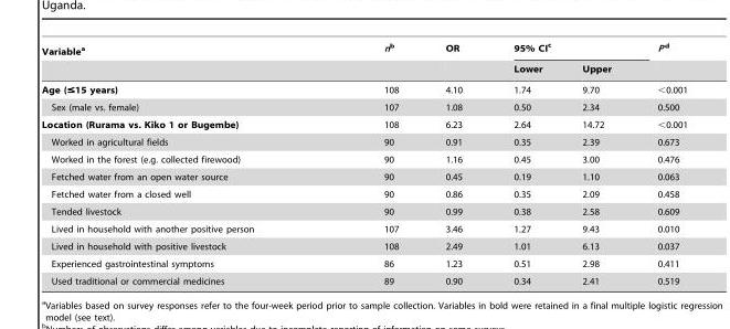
<table><thead><tr><td rowspan="2">Variable<sup>a</sup></td><td rowspan="2">nb</td><td rowspan="2">OR</td><td colspan="2">95% CI<sup>c</sup></td><td rowspan="2">P d</td></tr><tr><td>Lower</td><td>Upper</td></tr></thead><tbody><tr><td>Age (≤15 years)</td><td>108</td><td>4.10</td><td>1.74</td><td>9.70</td><td>&lt;0.001</td></tr><tr><td>Sex (male vs. female)</td><td>107</td><td>1.08</td><td>0.50</td><td>2.34</td><td>0.500</td></tr><tr><td>Location (Rurama vs. Kiko 1 or Bugembe)</td><td>108</td><td>6.23</td><td>2.64</td><td>14.72</td><td>&lt;0.001</td></tr><tr><td>Worked in agricultural fields</td><td>90</td><td>0.91</td><td>0.35</td><td>2.39</td><td>0.673</td></tr><tr><td>Worked in the forest (e.g. collected firewood)</td><td>90</td><td>1.16</td><td>0.45</td><td>3.00</td><td>0.476</td></tr><tr><td>Fetched water from an open water source</td><td>90</td><td>0.45</td><td>0.19</td><td>1.10</td><td>0.063</td></tr><tr><td>Fetched water from a closed well</td><td>90</td><td>0.86</td><td>0.35</td><td>2.09</td><td>0.458</td></tr><tr><td>Tended livestock</td><td>90</td><td>0.99</td><td>0.38</td><td>2.58</td><td>0.609</td></tr><tr><td>Lived in household with another positive person</td><td>107</td><td>3.46</td><td>1.27</td><td>9.43</td><td>0.010</td></tr><tr><td>Lived in household with positive livestock</td><td>108</td><td>2.49</td><td>1.01</td><td>6.13</td><td>0.037</td></tr><tr><td>Experienced gastrointestinal symptoms</td><td>86</td><td>1.23</td><td>0.51</td><td>2.98</td><td>0.411</td></tr><tr><td>Used traditional or commercial medicines</td><td>89</td><td>0.90</td><td>0.34</td><td>2.41</td><td>0.519</td></tr></tbody></table>